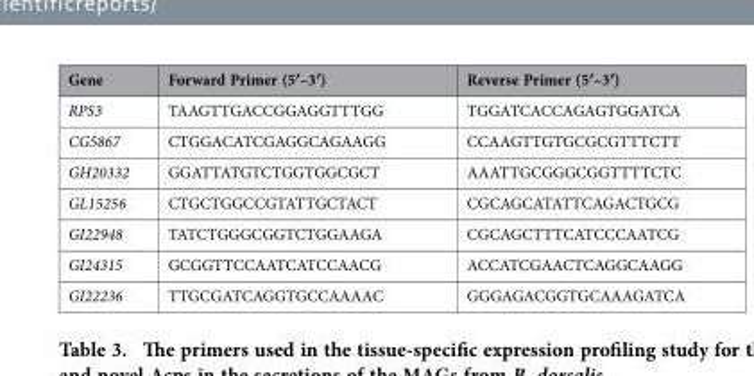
<table><thead><tr><td>Gene</td><td>Forward Primer (5′–3′)</td><td>Reverse Primer (5′–3′)</td></tr></thead><tbody><tr><td>RPS3</td><td>TAAGTTGACCGGAGGTTTGG</td><td>TGGATCACCAGAGTGGATCA</td></tr><tr><td>CG5867</td><td>CTGGACATCGAGGCAGAAGG</td><td>CCAAGTTGTGCGCGTTTCTT</td></tr><tr><td>GH20332</td><td>GGATTATGTCTGGTGGCGCT</td><td>AAATTGCGGGCGGTTTTCTC</td></tr><tr><td>GL15256</td><td>CTGCTGGCCGTATTGCTACT</td><td>CGCAGCATATTCAGACTGCG</td></tr><tr><td>GI22948</td><td>TATCTGGGCGGTCTGGAAGA</td><td>CGCAGCTTTCATCCCAATCG</td></tr><tr><td>GI24315</td><td>GCGGTTCCAATCATCCAACG</td><td>ACCATCGAACTCAGGCAAGG</td></tr><tr><td>GI22236</td><td>TTGCGATCAGGTGCCAAAAC</td><td>GGGAGACGGTGCAAAGATCA</td></tr></tbody></table>